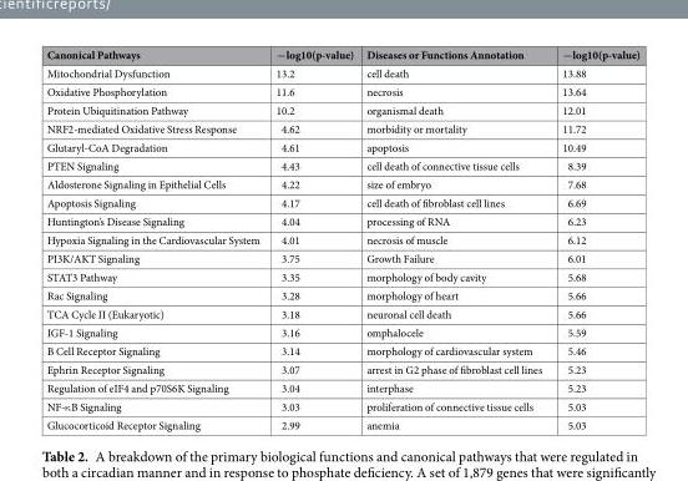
<table><thead><tr><td>Canonical Pathways</td><td>−log10(p-value)</td><td>Diseases or Functions Annotation</td><td>−log10(p-value)</td></tr></thead><tbody><tr><td>Mitochondrial Dysfunction</td><td>13.2</td><td>cell death</td><td>13.88</td></tr><tr><td>Oxidative Phosphorylation</td><td>11.6</td><td>necrosis</td><td>13.64</td></tr><tr><td>Protein Ubiquitination Pathway</td><td>10.2</td><td>organismal death</td><td>12.01</td></tr><tr><td>NRF2-mediated Oxidative Stress Response</td><td>4.62</td><td>morbidity or mortality</td><td>11.72</td></tr><tr><td>Glutaryl-CoA Degradation</td><td>4.61</td><td>apoptosis</td><td>10.49</td></tr><tr><td>PTEN Signaling</td><td>4.43</td><td>cell death of connective tissue cells</td><td>8.39</td></tr><tr><td>Aldosterone Signaling in Epithelial Cells</td><td>4.22</td><td>size of embryo</td><td>7.68</td></tr><tr><td>Apoptosis Signaling</td><td>4.17</td><td>cell death of fibroblast cell lines</td><td>6.69</td></tr><tr><td>Huntington’s Disease Signaling</td><td>4.04</td><td>processing of RNA</td><td>6.23</td></tr><tr><td>Hypoxia Signaling in the Cardiovascular System</td><td>4.01</td><td>necrosis of muscle</td><td>6.12</td></tr><tr><td>PI3K/AKT Signaling</td><td>3.75</td><td>Growth Failure</td><td>6.01</td></tr><tr><td>STAT3 Pathway</td><td>3.35</td><td>morphology of body cavity</td><td>5.68</td></tr><tr><td>Rac Signaling</td><td>3.28</td><td>morphology of heart</td><td>5.66</td></tr><tr><td>TCA Cycle II (Eukaryotic)</td><td>3.18</td><td>neuronal cell death</td><td>5.66</td></tr><tr><td>IGF-1 Signaling</td><td>3.16</td><td>omphalocele</td><td>5.59</td></tr><tr><td>B Cell Receptor Signaling</td><td>3.14</td><td>morphology of cardiovascular system</td><td>5.46</td></tr><tr><td>Ephrin Receptor Signaling</td><td>3.07</td><td>arrest in G2 phase of fibroblast cell lines</td><td>5.23</td></tr><tr><td>Regulation of eIF4 and p70S6K Signaling</td><td>3.04</td><td>interphase</td><td>5.23</td></tr><tr><td>NF-κB Signaling</td><td>3.03</td><td>proliferation of connective tissue cells</td><td>5.03</td></tr><tr><td>Glucocorticoid Receptor Signaling</td><td>2.99</td><td>anemia</td><td>5.03</td></tr></tbody></table>